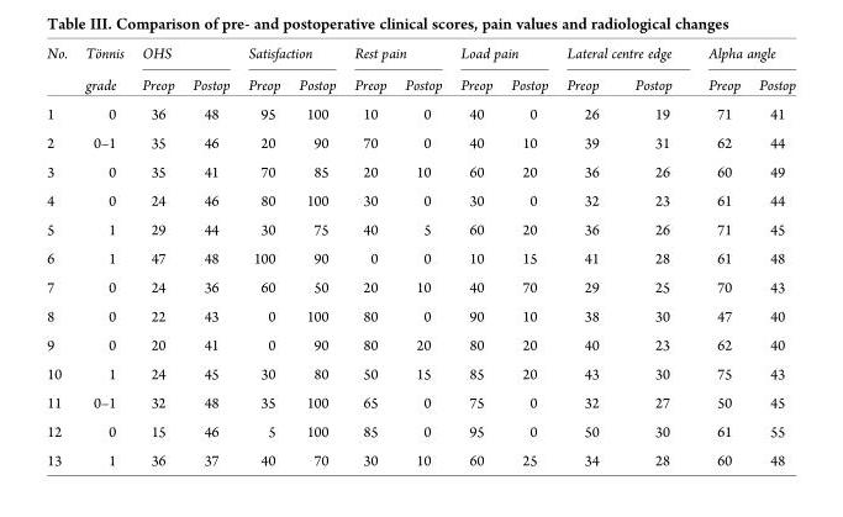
<table><thead><tr><td rowspan="2">No.</td><td rowspan="2">To¨nnis grade</td><td colspan="2">OHS</td><td colspan="2">Satisfaction</td><td colspan="2">Rest pain</td><td colspan="2">Load pain</td><td colspan="2">Lateral centre edge</td><td colspan="2">Alpha angle</td></tr><tr><td>Preop</td><td>Postop</td><td>Preop</td><td>Postop</td><td>Preop</td><td>Postop</td><td>Preop</td><td>Postop</td><td>Preop</td><td>Postop</td><td>Preop</td><td>Postop</td></tr></thead><tbody><tr><td>1</td><td>0</td><td>36</td><td>48</td><td>95</td><td>100</td><td>10</td><td>0</td><td>40</td><td>0</td><td>26</td><td>19</td><td>71</td><td>41</td></tr><tr><td>2</td><td>0–1</td><td>35</td><td>46</td><td>20</td><td>90</td><td>70</td><td>0</td><td>40</td><td>10</td><td>39</td><td>31</td><td>62</td><td>44</td></tr><tr><td>3</td><td>0</td><td>35</td><td>41</td><td>70</td><td>85</td><td>20</td><td>10</td><td>60</td><td>20</td><td>36</td><td>26</td><td>60</td><td>49</td></tr><tr><td>4</td><td>0</td><td>24</td><td>46</td><td>80</td><td>100</td><td>30</td><td>0</td><td>30</td><td>0</td><td>32</td><td>23</td><td>61</td><td>44</td></tr><tr><td>5</td><td>1</td><td>29</td><td>44</td><td>30</td><td>75</td><td>40</td><td>5</td><td>60</td><td>20</td><td>36</td><td>26</td><td>71</td><td>45</td></tr><tr><td>6</td><td>1</td><td>47</td><td>48</td><td>100</td><td>90</td><td>0</td><td>0</td><td>10</td><td>15</td><td>41</td><td>28</td><td>61</td><td>48</td></tr><tr><td>7</td><td>0</td><td>24</td><td>36</td><td>60</td><td>50</td><td>20</td><td>10</td><td>40</td><td>70</td><td>29</td><td>25</td><td>70</td><td>43</td></tr><tr><td>8</td><td>0</td><td>22</td><td>43</td><td>0</td><td>100</td><td>80</td><td>0</td><td>90</td><td>10</td><td>38</td><td>30</td><td>47</td><td>40</td></tr><tr><td>9</td><td>0</td><td>20</td><td>41</td><td>0</td><td>90</td><td>80</td><td>20</td><td>80</td><td>20</td><td>40</td><td>23</td><td>62</td><td>40</td></tr><tr><td>10</td><td>1</td><td>24</td><td>45</td><td>30</td><td>80</td><td>50</td><td>15</td><td>85</td><td>20</td><td>43</td><td>30</td><td>75</td><td>43</td></tr><tr><td>11</td><td>0–1</td><td>32</td><td>48</td><td>35</td><td>100</td><td>65</td><td>0</td><td>75</td><td>0</td><td>32</td><td>27</td><td>50</td><td>45</td></tr><tr><td>12</td><td>0</td><td>15</td><td>46</td><td>5</td><td>100</td><td>85</td><td>0</td><td>95</td><td>0</td><td>50</td><td>30</td><td>61</td><td>55</td></tr><tr><td>13</td><td>1</td><td>36</td><td>37</td><td>40</td><td>70</td><td>30</td><td>10</td><td>60</td><td>25</td><td>34</td><td>28</td><td>60</td><td>48</td></tr></tbody></table>